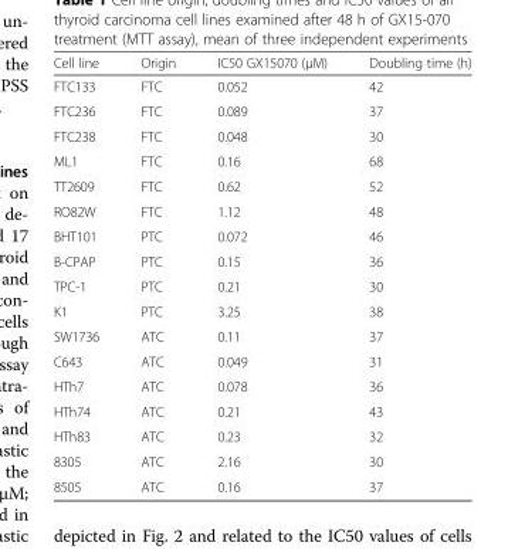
<table><thead><tr><td>Cell line</td><td>Origin</td><td>IC50 GX15070 (μM)</td><td>Doubling time (h)</td></tr></thead><tbody><tr><td>FTC133</td><td>FTC</td><td>0.052</td><td>42</td></tr><tr><td>FTC236</td><td>FTC</td><td>0.089</td><td>37</td></tr><tr><td>FTC238</td><td>FTC</td><td>0.048</td><td>30</td></tr><tr><td>ML1</td><td>FTC</td><td>0.16</td><td>68</td></tr><tr><td>TT2609</td><td>FTC</td><td>0.62</td><td>52</td></tr><tr><td>RO82W</td><td>FTC</td><td>1.12</td><td>48</td></tr><tr><td>BHT101</td><td>PTC</td><td>0.072</td><td>46</td></tr><tr><td>B-CPAP</td><td>PTC</td><td>0.15</td><td>36</td></tr><tr><td>TPC-1</td><td>PTC</td><td>0.21</td><td>30</td></tr><tr><td>K1</td><td>PTC</td><td>3.25</td><td>38</td></tr><tr><td>SW1736</td><td>ATC</td><td>0.11</td><td>37</td></tr><tr><td>C643</td><td>ATC</td><td>0.049</td><td>31</td></tr><tr><td>HTh7</td><td>ATC</td><td>0.078</td><td>36</td></tr><tr><td>HTh74</td><td>ATC</td><td>0.21</td><td>43</td></tr><tr><td>HTh83</td><td>ATC</td><td>0.23</td><td>32</td></tr><tr><td>8305</td><td>ATC</td><td>2.16</td><td>30</td></tr><tr><td>8505</td><td>ATC</td><td>0.16</td><td>37</td></tr></tbody></table>